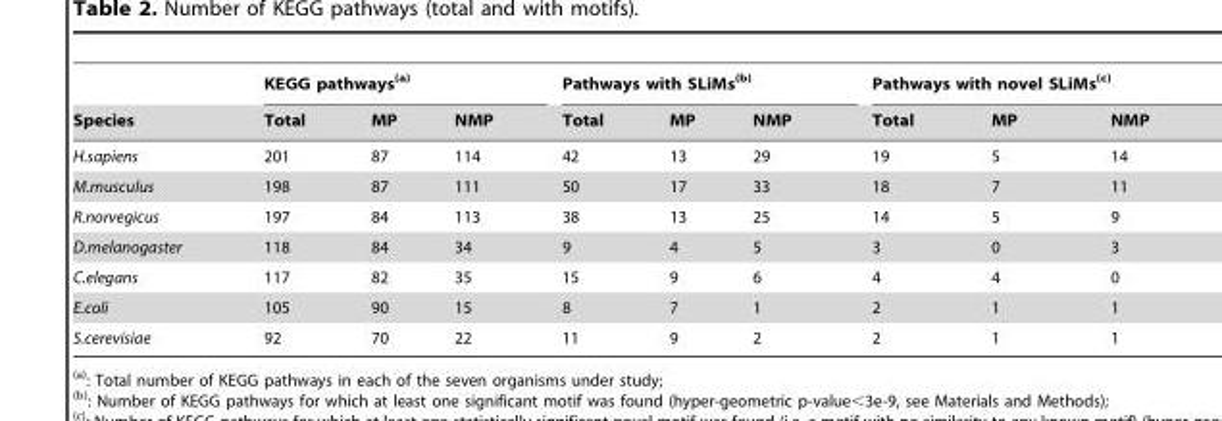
<table><thead><tr><td rowspan="2">Species</td><td colspan="3">KEGG pathways(a)</td><td colspan="3">Pathways with SLiMs(b)</td><td colspan="3">Pathways with novel SLiMs(c)</td></tr><tr><td>Total</td><td>MP</td><td>NMP</td><td>Total</td><td>MP</td><td>NMP</td><td>Total</td><td>MP</td><td>NMP</td></tr></thead><tbody><tr><td>H.sapiens</td><td>201</td><td>87</td><td>114</td><td>42</td><td>13</td><td>29</td><td>19</td><td>5</td><td>14</td></tr><tr><td>M.musculus</td><td>198</td><td>87</td><td>111</td><td>50</td><td>17</td><td>33</td><td>18</td><td>7</td><td>11</td></tr><tr><td>R.norvegicus</td><td>197</td><td>84</td><td>113</td><td>38</td><td>13</td><td>25</td><td>14</td><td>5</td><td>9</td></tr><tr><td>D.melanogaster</td><td>118</td><td>84</td><td>34</td><td>9</td><td>4</td><td>5</td><td>3</td><td>0</td><td>3</td></tr><tr><td>C.elegans</td><td>117</td><td>82</td><td>35</td><td>15</td><td>9</td><td>6</td><td>4</td><td>4</td><td>0</td></tr><tr><td>E.coli</td><td>105</td><td>90</td><td>15</td><td>8</td><td>7</td><td>1</td><td>2</td><td>1</td><td>1</td></tr><tr><td>S.cerevisiae</td><td>92</td><td>70</td><td>22</td><td>11</td><td>9</td><td>2</td><td>2</td><td>1</td><td>1</td></tr></tbody></table>